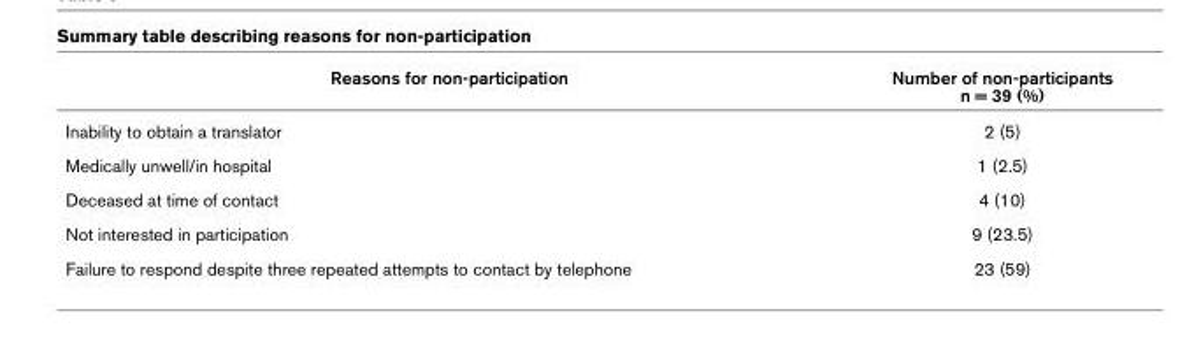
<table><thead><tr><td>Reasons for non-participation</td><td>Number of non-participants n = 39 (%)</td></tr></thead><tbody><tr><td>Inability to obtain a translator</td><td>2 (5)</td></tr><tr><td>Medically unwell/in hospital</td><td>1 (2.5)</td></tr><tr><td>Deceased at time of contact</td><td>4 (10)</td></tr><tr><td>Not interested in participation</td><td>9 (23.5)</td></tr><tr><td>Failure to respond despite three repeated attempts to contact by telephone</td><td>23 (59)</td></tr></tbody></table>